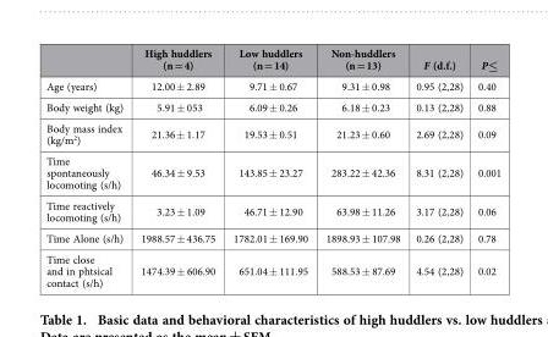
<table><thead><tr><td></td><td>High huddlers (n = 4)</td><td>Low huddlers (n = 14)</td><td>Non-huddlers (n = 13)</td><td>F (d.f.)</td><td>P≤</td></tr></thead><tbody><tr><td>Age (years)</td><td>12.00 ± 2.89</td><td>9.71 ± 0.67</td><td>9.31 ± 0.98</td><td>0.95 (2,28)</td><td>0.40</td></tr><tr><td>Body weight (kg)</td><td>5.91 ± 053</td><td>6.09 ± 0.26</td><td>6.18 ± 0.23</td><td>0.13 (2,28)</td><td>0.88</td></tr><tr><td>Body mass index (kg/m<sup>2</sup>)</td><td>21.36 ± 1.17</td><td>19.53 ± 0.51</td><td>21.23 ± 0.60</td><td>2.69 (2,28)</td><td>0.09</td></tr><tr><td>Time spontaneously locomoting (s/h)</td><td>46.34 ± 9.53</td><td>143.85 ± 23.27</td><td>283.22 ± 42.36</td><td>8.31 (2,28)</td><td>0.001</td></tr><tr><td>Time reactively locomoting (s/h)</td><td>3.23 ± 1.09</td><td>46.71 ± 12.90</td><td>63.98 ± 11.26</td><td>3.17 (2,28)</td><td>0.06</td></tr><tr><td>Time Alone (s/h)</td><td>1988.57 ± 436.75</td><td>1782.01 ± 169.90</td><td>1898.93 ± 107.98</td><td>0.26 (2,28)</td><td>0.78</td></tr><tr><td>Time close and in phtsical contact (s/h)</td><td>1474.39 ± 606.90</td><td>651.04 ± 111.95</td><td>588.53 ± 87.69</td><td>4.54 (2,28)</td><td>0.02</td></tr></tbody></table>